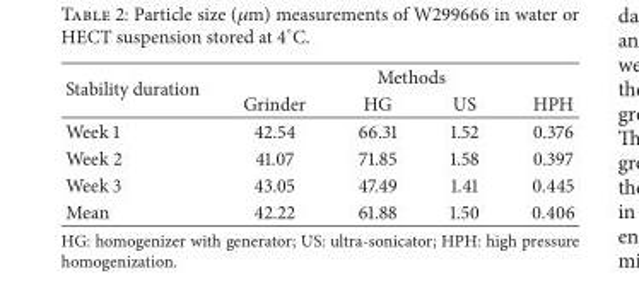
<table><thead><tr><td rowspan="2">Stability duration</td><td colspan="4">Methods</td></tr><tr><td>Grinder</td><td>HG</td><td>US</td><td>HPH</td></tr></thead><tbody><tr><td>Week 1</td><td>42.54</td><td>66.31</td><td>1.52</td><td>0.376</td></tr><tr><td>Week 2</td><td>41.07</td><td>71.85</td><td>1.58</td><td>0.397</td></tr><tr><td>Week 3</td><td>43.05</td><td>47.49</td><td>1.41</td><td>0.445</td></tr><tr><td>Mean</td><td>42.22</td><td>61.88</td><td>1.50</td><td>0.406</td></tr></tbody></table>